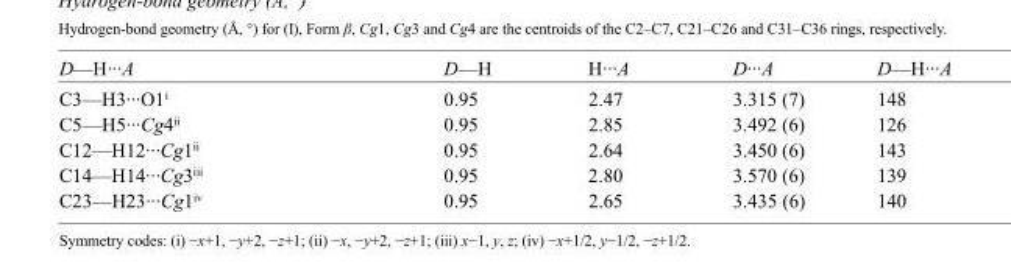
<table><tbody><tr><td>D—H···A</td><td>D—H</td><td>H···A</td><td>D···A</td><td>D—H···A</td></tr><tr><td>C3—H3···O1<sup>i</sup></td><td>0.95</td><td>2.47</td><td>3.315 (7)</td><td>148</td></tr><tr><td>C5—H5···Cg4<sup>ii</sup></td><td>0.95</td><td>2.85</td><td>3.492 (6)</td><td>126</td></tr><tr><td>C12—H12···Cg1<sup>ii</sup></td><td>0.95</td><td>2.64</td><td>3.450 (6)</td><td>143</td></tr><tr><td>C14—H14···Cg3<sup>iii</sup></td><td>0.95</td><td>2.80</td><td>3.570 (6)</td><td>139</td></tr><tr><td>C23—H23···Cg1<sup>iv</sup></td><td>0.95</td><td>2.65</td><td>3.435 (6)</td><td>140</td></tr></tbody></table>